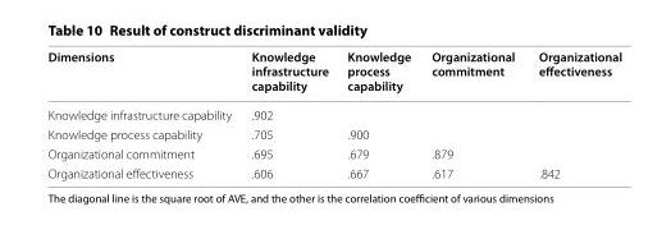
<table><thead><tr><td>Dimensions</td><td>Knowledge infrastructure capability</td><td>Knowledge process capability</td><td>Organizational commitment</td><td>Organizational effectiveness</td></tr></thead><tbody><tr><td>Knowledge infrastructure capability</td><td>.902</td><td></td><td></td><td></td></tr><tr><td>Knowledge process capability</td><td>.705</td><td>.900</td><td></td><td></td></tr><tr><td>Organizational commitment</td><td>.695</td><td>.679</td><td>.879</td><td></td></tr><tr><td>Organizational effectiveness</td><td>.606</td><td>.667</td><td>.617</td><td>.842</td></tr></tbody></table>